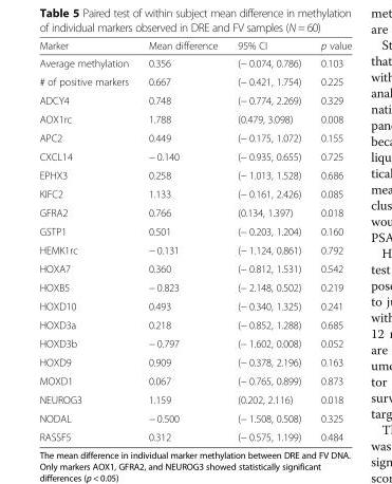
<table><thead><tr><td>Marker</td><td>Mean difference</td><td>95% CI</td><td>p value</td></tr></thead><tbody><tr><td>Average methylation</td><td>0.356</td><td>(− 0.074, 0.786)</td><td>0.103</td></tr><tr><td># of positive markers</td><td>0.667</td><td>(− 0.421, 1.754)</td><td>0.225</td></tr><tr><td>ADCY4</td><td>0.748</td><td>(− 0.774, 2.269)</td><td>0.329</td></tr><tr><td>AOX1rc</td><td>1.788</td><td>(0.479, 3.098)</td><td>0.008</td></tr><tr><td>APC2</td><td>0.449</td><td>(− 0.175, 1.072)</td><td>0.155</td></tr><tr><td>CXCL14</td><td>− 0.140</td><td>(− 0.935, 0.655)</td><td>0.725</td></tr><tr><td>EPHX3</td><td>0.258</td><td>(− 1.013, 1.528)</td><td>0.686</td></tr><tr><td>KIFC2</td><td>1.133</td><td>(− 0.161, 2.426)</td><td>0.085</td></tr><tr><td>GFRA2</td><td>0.766</td><td>(0.134, 1.397)</td><td>0.018</td></tr><tr><td>GSTP1</td><td>0.501</td><td>(− 0.203, 1.204)</td><td>0.160</td></tr><tr><td>HEMK1rc</td><td>− 0.131</td><td>(− 1.124, 0.861)</td><td>0.792</td></tr><tr><td>HOXA7</td><td>0.360</td><td>(− 0.812, 1.531)</td><td>0.542</td></tr><tr><td>HOXB5</td><td>− 0.823</td><td>(− 2.148, 0.502)</td><td>0.219</td></tr><tr><td>HOXD10</td><td>0.493</td><td>(− 0.340, 1.325)</td><td>0.241</td></tr><tr><td>HOXD3a</td><td>0.218</td><td>(− 0.852, 1.288)</td><td>0.685</td></tr><tr><td>HOXD3b</td><td>− 0.797</td><td>(− 1.602, 0.008)</td><td>0.052</td></tr><tr><td>HOXD9</td><td>0.909</td><td>(− 0.378, 2.196)</td><td>0.163</td></tr><tr><td>MOXD1</td><td>0.067</td><td>(− 0.765, 0.899)</td><td>0.873</td></tr><tr><td>NEUROG3</td><td>1.159</td><td>(0.202, 2.116)</td><td>0.018</td></tr><tr><td>NODAL</td><td>− 0.500</td><td>(− 1.508, 0.508)</td><td>0.325</td></tr><tr><td>RASSF5</td><td>0.312</td><td>(− 0.575, 1.199)</td><td>0.484</td></tr></tbody></table>